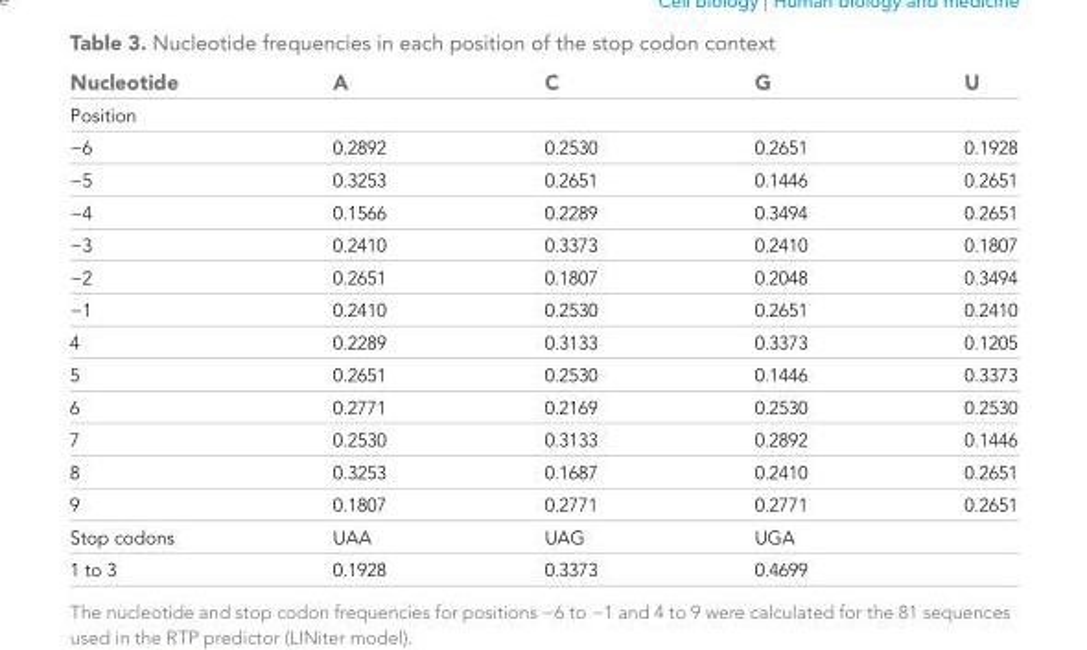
<table><thead><tr><td>Nucleotide</td><td>A</td><td>C</td><td>G</td><td>U</td></tr></thead><tbody><tr><td colspan="5">Position</td></tr><tr><td>−6</td><td>0.2892</td><td>0.2530</td><td>0.2651</td><td>0.1928</td></tr><tr><td>−5</td><td>0.3253</td><td>0.2651</td><td>0.1446</td><td>0.2651</td></tr><tr><td>−4</td><td>0.1566</td><td>0.2289</td><td>0.3494</td><td>0.2651</td></tr><tr><td>−3</td><td>0.2410</td><td>0.3373</td><td>0.2410</td><td>0.1807</td></tr><tr><td>−2</td><td>0.2651</td><td>0.1807</td><td>0.2048</td><td>0.3494</td></tr><tr><td>−1</td><td>0.2410</td><td>0.2530</td><td>0.2651</td><td>0.2410</td></tr><tr><td>4</td><td>0.2289</td><td>0.3133</td><td>0.3373</td><td>0.1205</td></tr><tr><td>5</td><td>0.2651</td><td>0.2530</td><td>0.1446</td><td>0.3373</td></tr><tr><td>6</td><td>0.2771</td><td>0.2169</td><td>0.2530</td><td>0.2530</td></tr><tr><td>7</td><td>0.2530</td><td>0.3133</td><td>0.2892</td><td>0.1446</td></tr><tr><td>8</td><td>0.3253</td><td>0.1687</td><td>0.2410</td><td>0.2651</td></tr><tr><td>9</td><td>0.1807</td><td>0.2771</td><td>0.2771</td><td>0.2651</td></tr><tr><td>Stop codons</td><td>UAA</td><td>UAG</td><td>UGA</td><td></td></tr><tr><td>1 to 3</td><td>0.1928</td><td>0.3373</td><td>0.4699</td><td></td></tr></tbody></table>